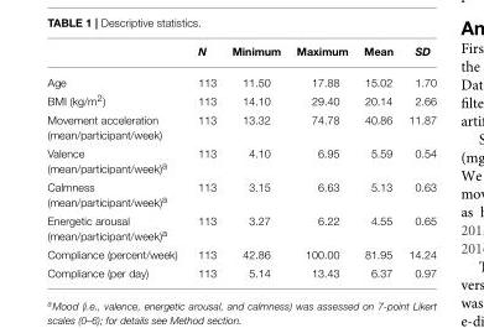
<table><thead><tr><td></td><td>N</td><td>Minimum</td><td>Maximum</td><td>Mean</td><td>SD</td></tr></thead><tbody><tr><td>Age</td><td>113</td><td>11.50</td><td>17.88</td><td>15.02</td><td>1.70</td></tr><tr><td>BMI (kg/m<sup>2</sup>)</td><td>113</td><td>14.10</td><td>29.40</td><td>20.14</td><td>2.66</td></tr><tr><td>Movement acceleration (mean/participant/week)</td><td>113</td><td>13.32</td><td>74.78</td><td>40.86</td><td>11.87</td></tr><tr><td>Valence (mean/participant/week)<sup>a</sup></td><td>113</td><td>4.10</td><td>6.95</td><td>5.59</td><td>0.54</td></tr><tr><td>Calmness (mean/participant/week)<sup>a</sup></td><td>113</td><td>3.15</td><td>6.63</td><td>5.13</td><td>0.63</td></tr><tr><td>Energetic arousal (mean/participant/week)<sup>a</sup></td><td>113</td><td>3.27</td><td>6.22</td><td>4.55</td><td>0.65</td></tr><tr><td>Compliance (percent/week)</td><td>113</td><td>42.86</td><td>100.00</td><td>81.95</td><td>14.24</td></tr><tr><td>Compliance (per day)</td><td>113</td><td>5.14</td><td>13.43</td><td>6.37</td><td>0.97</td></tr></tbody></table>